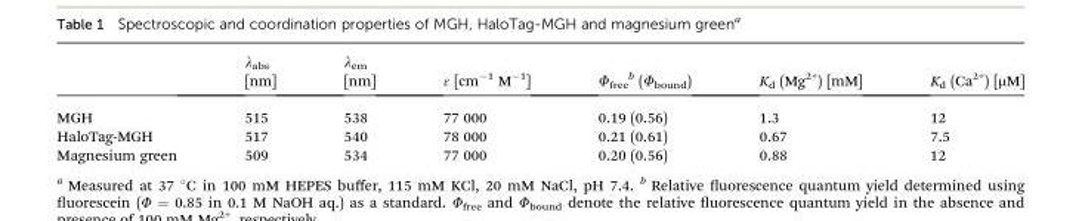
<table><thead><tr><td></td><td>λ<sub>abs</sub> [nm]</td><td>λ<sub>em</sub> [nm]</td><td>ε [cm<sup>–1</sup> M<sup>–1</sup>]</td><td>Φ<sub>free</sub> <sup>b</sup> (Φ<sub>bound</sub>)</td><td>K<sub>d</sub> (Mg<sup>2+</sup>) [mM]</td><td>K<sub>d</sub> (Ca<sup>2+</sup>) [μM]</td></tr></thead><tbody><tr><td>MGH</td><td>515</td><td>538</td><td>77 000</td><td>0.19 (0.56)</td><td>1.3</td><td>12</td></tr><tr><td>HaloTag-MGH</td><td>517</td><td>540</td><td>78 000</td><td>0.21 (0.61)</td><td>0.67</td><td>7.5</td></tr><tr><td>Magnesium green</td><td>509</td><td>534</td><td>77 000</td><td>0.20 (0.56)</td><td>0.88</td><td>12</td></tr></tbody></table>